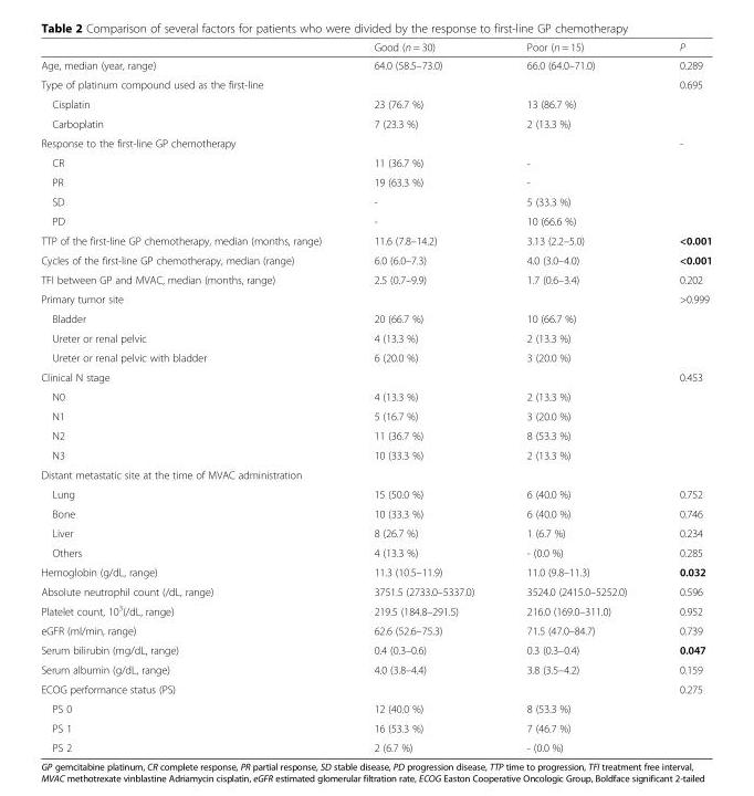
<table><thead><tr><td></td><td>Good (n = 30)</td><td>Poor (n = 15)</td><td>P</td></tr></thead><tbody><tr><td>Age, median (year, range)</td><td>64.0 (58.5–73.0)</td><td>66.0 (64.0–71.0)</td><td>0.289</td></tr><tr><td>Type of platinum compound used as the first-line</td><td></td><td></td><td>0.695</td></tr><tr><td>Cisplatin</td><td>23 (76.7 %)</td><td>13 (86.7 %)</td><td></td></tr><tr><td>Carboplatin</td><td>7 (23.3 %)</td><td>2 (13.3 %)</td><td></td></tr><tr><td>Response to the first-line GP chemotherapy</td><td></td><td></td><td>-</td></tr><tr><td>CR</td><td>11 (36.7 %)</td><td>-</td><td></td></tr><tr><td>PR</td><td>19 (63.3 %)</td><td>-</td><td></td></tr><tr><td>SD</td><td>-</td><td>5 (33.3 %)</td><td></td></tr><tr><td>PD</td><td>-</td><td>10 (66.6 %)</td><td></td></tr><tr><td>TTP of the first-line GP chemotherapy, median (months, range)</td><td>11.6 (7.8–14.2)</td><td>3.13 (2.2–5.0)</td><td>&lt;0.001</td></tr><tr><td>Cycles of the first-line GP chemotherapy, median (range)</td><td>6.0 (6.0–7.3)</td><td>4.0 (3.0–4.0)</td><td>&lt;0.001</td></tr><tr><td>TFI between GP and MVAC, median (months, range)</td><td>2.5 (0.7–9.9)</td><td>1.7 (0.6–3.4)</td><td>0.202</td></tr><tr><td>Primary tumor site</td><td></td><td></td><td>&gt;0.999</td></tr><tr><td>Bladder</td><td>20 (66.7 %)</td><td>10 (66.7 %)</td><td></td></tr><tr><td>Ureter or renal pelvic</td><td>4 (13.3 %)</td><td>2 (13.3 %)</td><td></td></tr><tr><td>Ureter or renal pelvic with bladder</td><td>6 (20.0 %)</td><td>3 (20.0 %)</td><td></td></tr><tr><td>Clinical N stage</td><td></td><td></td><td>0.453</td></tr><tr><td>N0</td><td>4 (13.3 %)</td><td>2 (13.3 %)</td><td></td></tr><tr><td>N1</td><td>5 (16.7 %)</td><td>3 (20.0 %)</td><td></td></tr><tr><td>N2</td><td>11 (36.7 %)</td><td>8 (53.3 %)</td><td></td></tr><tr><td>N3</td><td>10 (33.3 %)</td><td>2 (13.3 %)</td><td></td></tr><tr><td colspan="4">Distant metastatic site at the time of MVAC administration</td></tr><tr><td>Lung</td><td>15 (50.0 %)</td><td>6 (40.0 %)</td><td>0.752</td></tr><tr><td>Bone</td><td>10 (33.3 %)</td><td>6 (40.0 %)</td><td>0.746</td></tr><tr><td>Liver</td><td>8 (26.7 %)</td><td>1 (6.7 %)</td><td>0.234</td></tr><tr><td>Others</td><td>4 (13.3 %)</td><td>- (0.0 %)</td><td>0.285</td></tr><tr><td>Hemoglobin (g/dL, range)</td><td>11.3 (10.5–11.9)</td><td>11.0 (9.8–11.3)</td><td>0.032</td></tr><tr><td>Absolute neutrophil count (/dL, range)</td><td>3751.5 (2733.0–5337.0)</td><td>3524.0 (2415.0–5252.0)</td><td>0.596</td></tr><tr><td>Platelet count, 10<sup>3</sup>(/dL, range)</td><td>219.5 (184.8–291.5)</td><td>216.0 (169.0–311.0)</td><td>0.952</td></tr><tr><td>eGFR (ml/min, range)</td><td>62.6 (52.6–75.3)</td><td>71.5 (47.0–84.7)</td><td>0.739</td></tr><tr><td>Serum bilirubin (mg/dL, range)</td><td>0.4 (0.3–0.6)</td><td>0.3 (0.3–0.4)</td><td>0.047</td></tr><tr><td>Serum albumin (g/dL, range)</td><td>4.0 (3.8–4.4)</td><td>3.8 (3.5–4.2)</td><td>0.159</td></tr><tr><td>ECOG performance status (PS)</td><td></td><td></td><td>0.275</td></tr><tr><td>PS 0</td><td>12 (40.0 %)</td><td>8 (53.3 %)</td><td></td></tr><tr><td>PS 1</td><td>16 (53.3 %)</td><td>7 (46.7 %)</td><td></td></tr><tr><td>PS 2</td><td>2 (6.7 %)</td><td>- (0.0 %)</td><td></td></tr></tbody></table>